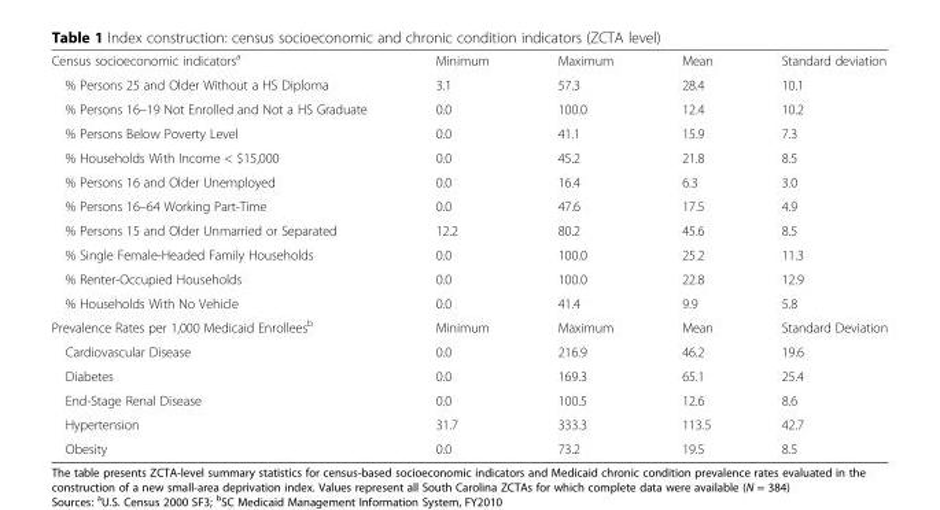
<table><tbody><tr><td>Census socioeconomic indicators<sup>a</sup></td><td>Minimum</td><td>Maximum</td><td>Mean</td><td>Standard deviation</td></tr><tr><td>% Persons 25 and Older Without a HS Diploma</td><td>3.1</td><td>57.3</td><td>28.4</td><td>10.1</td></tr><tr><td>% Persons 16–19 Not Enrolled and Not a HS Graduate</td><td>0.0</td><td>100.0</td><td>12.4</td><td>10.2</td></tr><tr><td>% Persons Below Poverty Level</td><td>0.0</td><td>41.1</td><td>15.9</td><td>7.3</td></tr><tr><td>% Households With Income &lt; $15,000</td><td>0.0</td><td>45.2</td><td>21.8</td><td>8.5</td></tr><tr><td>% Persons 16 and Older Unemployed</td><td>0.0</td><td>16.4</td><td>6.3</td><td>3.0</td></tr><tr><td>% Persons 16–64 Working Part-Time</td><td>0.0</td><td>47.6</td><td>17.5</td><td>4.9</td></tr><tr><td>% Persons 15 and Older Unmarried or Separated</td><td>12.2</td><td>80.2</td><td>45.6</td><td>8.5</td></tr><tr><td>% Single Female-Headed Family Households</td><td>0.0</td><td>100.0</td><td>25.2</td><td>11.3</td></tr><tr><td>% Renter-Occupied Households</td><td>0.0</td><td>100.0</td><td>22.8</td><td>12.9</td></tr><tr><td>% Households With No Vehicle</td><td>0.0</td><td>41.4</td><td>9.9</td><td>5.8</td></tr><tr><td>Prevalence Rates per 1,000 Medicaid Enrollees<sup>b</sup></td><td>Minimum</td><td>Maximum</td><td>Mean</td><td>Standard Deviation</td></tr><tr><td>Cardiovascular Disease</td><td>0.0</td><td>216.9</td><td>46.2</td><td>19.6</td></tr><tr><td>Diabetes</td><td>0.0</td><td>169.3</td><td>65.1</td><td>25.4</td></tr><tr><td>End-Stage Renal Disease</td><td>0.0</td><td>100.5</td><td>12.6</td><td>8.6</td></tr><tr><td>Hypertension</td><td>31.7</td><td>333.3</td><td>113.5</td><td>42.7</td></tr><tr><td>Obesity</td><td>0.0</td><td>73.2</td><td>19.5</td><td>8.5</td></tr></tbody></table>